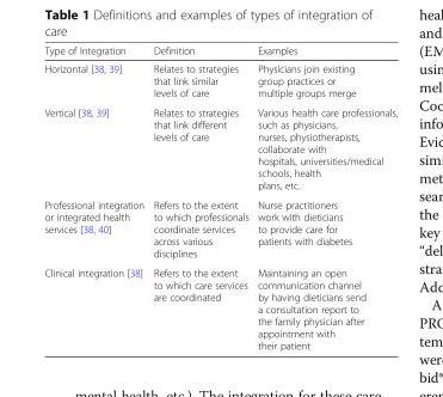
<table><thead><tr><td>Type of Integration</td><td>Definition</td><td>Examples</td></tr></thead><tbody><tr><td>Horizontal [38, 39]</td><td>Relates to strategies that link similar levels of care</td><td>Physicians join existing group practices or multiple groups merge</td></tr><tr><td>Vertical [38, 39]</td><td>Relates to strategies that link different levels of care</td><td>Various health care professionals, such as physicians, nurses, physiotherapists, collaborate with hospitals, universities/medical schools, health plans, etc.</td></tr><tr><td>Professional integration or integrated health services [38, 40]</td><td>Refers to the extent to which professionals coordinate services across various disciplines</td><td>Nurse practitioners work with dieticians to provide care for patients with diabetes</td></tr><tr><td>Clinical integration [38]</td><td>Refers to the extent to which care services are coordinated</td><td>Maintaining an open communication channel by having dieticians send a consultation report to the family physician after appointment with their patient</td></tr></tbody></table>